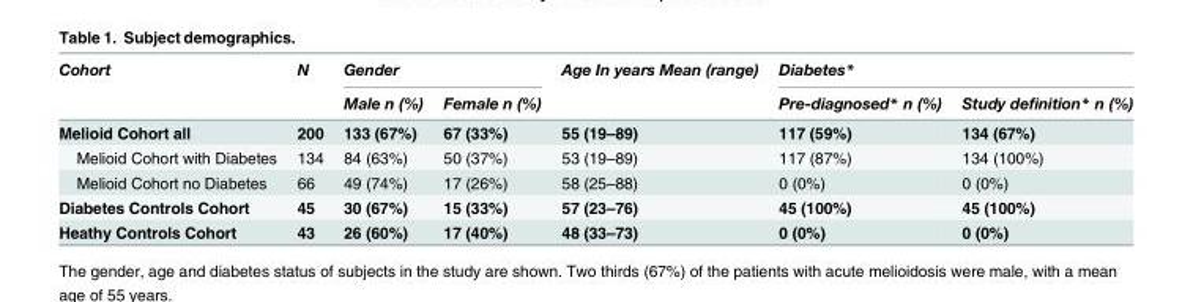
<table><thead><tr><td rowspan="2">Cohort</td><td rowspan="2">N</td><td colspan="2">Gender</td><td rowspan="2">Age In years Mean (range)</td><td colspan="2">Diabetes*</td></tr><tr><td>Male n (%)</td><td>Female n (%)</td><td>Pre-diagnosed* n (%)</td><td>Study definition* n (%)</td></tr></thead><tbody><tr><td>Melioid Cohort all</td><td>200</td><td>133 (67%)</td><td>67 (33%)</td><td>55 (19–89)</td><td>117 (59%)</td><td>134 (67%)</td></tr><tr><td>Melioid Cohort with Diabetes</td><td>134</td><td>84 (63%)</td><td>50 (37%)</td><td>53 (19–89)</td><td>117 (87%)</td><td>134 (100%)</td></tr><tr><td>Melioid Cohort no Diabetes</td><td>66</td><td>49 (74%)</td><td>17 (26%)</td><td>58 (25–88)</td><td>0 (0%)</td><td>0 (0%)</td></tr><tr><td>Diabetes Controls Cohort</td><td>45</td><td>30 (67%)</td><td>15 (33%)</td><td>57 (23–76)</td><td>45 (100%)</td><td>45 (100%)</td></tr><tr><td>Heathy Controls Cohort</td><td>43</td><td>26 (60%)</td><td>17 (40%)</td><td>48 (33–73)</td><td>0 (0%)</td><td>0 (0%)</td></tr></tbody></table>